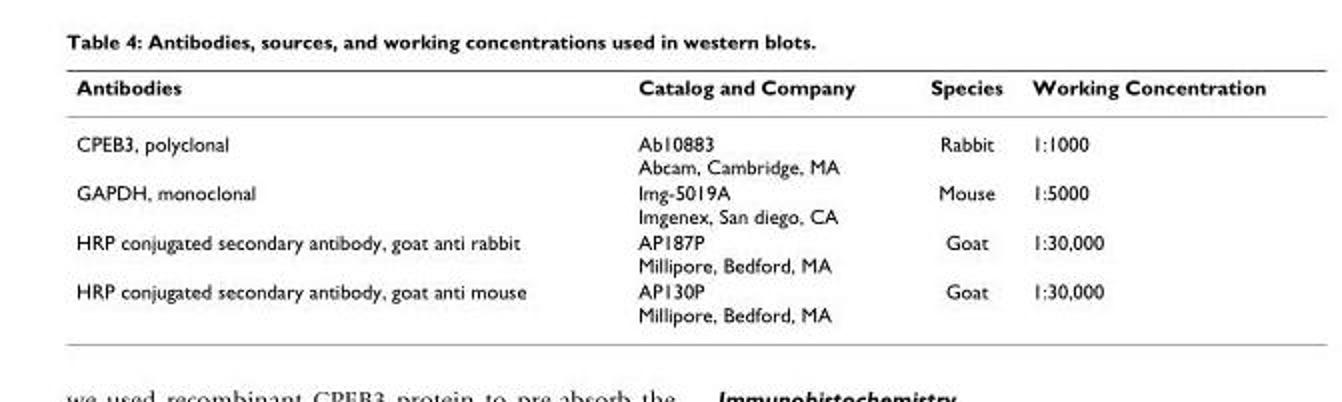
<table><thead><tr><td>Antibodies</td><td>Catalog and Company</td><td>Species</td><td>Working Concentration</td></tr></thead><tbody><tr><td>CPEB3, polyclonal</td><td>Ab10883 Abcam, Cambridge, MA</td><td>Rabbit</td><td>1:1000</td></tr><tr><td>GAPDH, monoclonal</td><td>Img-5019A Imgenex, San diego, CA</td><td>Mouse</td><td>1:5000</td></tr><tr><td>HRP conjugated secondary antibody, goat anti rabbit</td><td>AP187P Millipore, Bedford, MA</td><td>Goat</td><td>1:30,000</td></tr><tr><td>HRP conjugated secondary antibody, goat anti mouse</td><td>AP130P Millipore, Bedford, MA</td><td>Goat</td><td>1:30,000</td></tr></tbody></table>